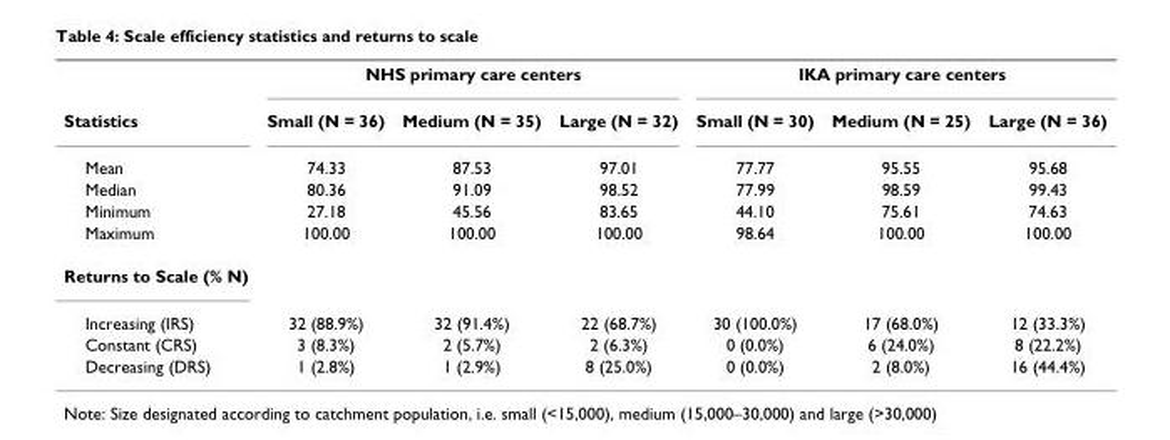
<table><thead><tr><td rowspan="2">Statistics</td><td colspan="3">NHS primary care centers</td><td colspan="3">IKA primary care centers</td></tr><tr><td>Small (N = 36)</td><td>Medium (N = 35)</td><td>Large (N = 32)</td><td>Small (N = 30)</td><td>Medium (N = 25)</td><td>Large (N = 36)</td></tr></thead><tbody><tr><td>Mean</td><td>74.33</td><td>87.53</td><td>97.01</td><td>77.77</td><td>95.55</td><td>95.68</td></tr><tr><td>Median</td><td>80.36</td><td>91.09</td><td>98.52</td><td>77.99</td><td>98.59</td><td>99.43</td></tr><tr><td>Minimum</td><td>27.18</td><td>45.56</td><td>83.65</td><td>44.10</td><td>75.61</td><td>74.63</td></tr><tr><td>Maximum</td><td>100.00</td><td>100.00</td><td>100.00</td><td>98.64</td><td>100.00</td><td>100.00</td></tr><tr><td colspan="7">Returns to Scale (% N)</td></tr><tr><td>Increasing (IRS)</td><td>32 (88.9%)</td><td>32 (91.4%)</td><td>22 (68.7%)</td><td>30 (100.0%)</td><td>17 (68.0%)</td><td>12 (33.3%)</td></tr><tr><td>Constant (CRS)</td><td>3 (8.3%)</td><td>2 (5.7%)</td><td>2 (6.3%)</td><td>0 (0.0%)</td><td>6 (24.0%)</td><td>8 (22.2%)</td></tr><tr><td>Decreasing (DRS)</td><td>1 (2.8%)</td><td>1 (2.9%)</td><td>8 (25.0%)</td><td>0 (0.0%)</td><td>2 (8.0%)</td><td>16 (44.4%)</td></tr></tbody></table>